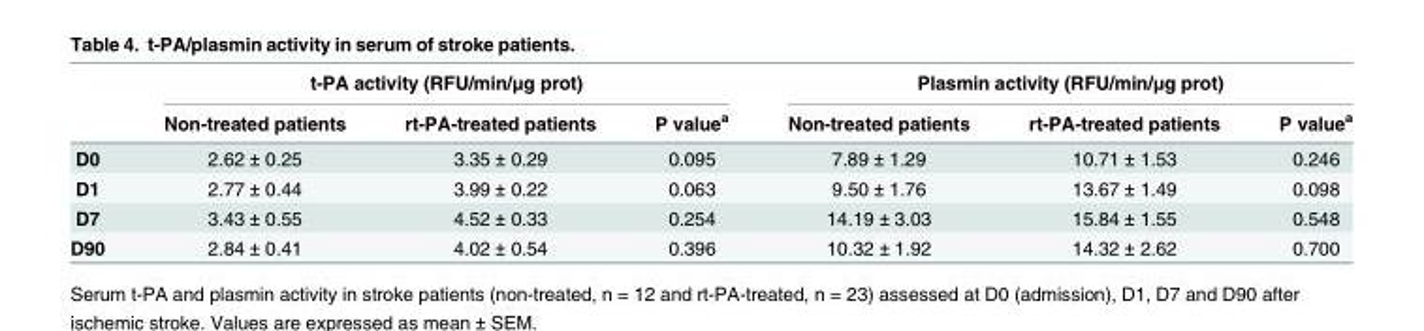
<table><thead><tr><td rowspan="2"></td><td colspan="3">t-PA activity (RFU/min/μg prot)</td><td colspan="3">Plasmin activity (RFU/min/μg prot)</td></tr><tr><td>Non-treated patients</td><td>rt-PA-treated patients</td><td>P value<sup>a</sup></td><td>Non-treated patients</td><td>rt-PA-treated patients</td><td>P value<sup>a</sup></td></tr></thead><tbody><tr><td>D0</td><td>2.62 ± 0.25</td><td>3.35 ± 0.29</td><td>0.095</td><td>7.89 ± 1.29</td><td>10.71 ± 1.53</td><td>0.246</td></tr><tr><td>D1</td><td>2.77 ± 0.44</td><td>3.99 ± 0.22</td><td>0.063</td><td>9.50 ± 1.76</td><td>13.67 ± 1.49</td><td>0.098</td></tr><tr><td>D7</td><td>3.43 ± 0.55</td><td>4.52 ± 0.33</td><td>0.254</td><td>14.19 ± 3.03</td><td>15.84 ± 1.55</td><td>0.548</td></tr><tr><td>D90</td><td>2.84 ± 0.41</td><td>4.02 ± 0.54</td><td>0.396</td><td>10.32 ± 1.92</td><td>14.32 ± 2.62</td><td>0.700</td></tr></tbody></table>